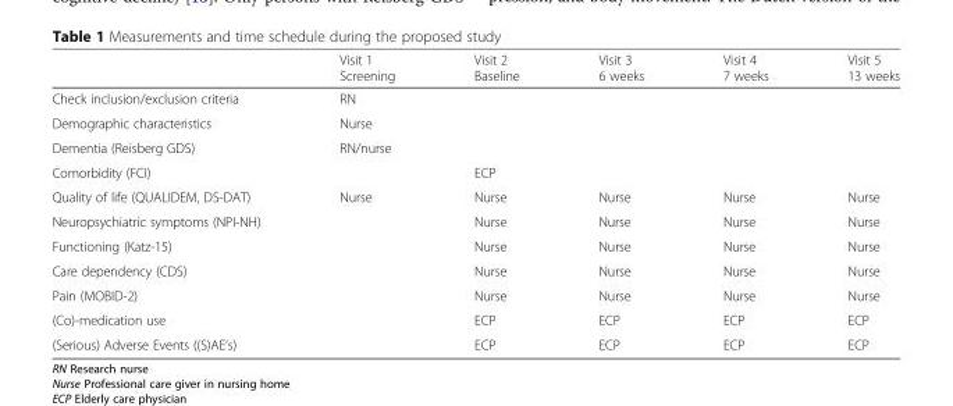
<table><thead><tr><td></td><td>Visit 1 Screening</td><td>Visit 2 Baseline</td><td>Visit 3 6 weeks</td><td>Visit 4 7 weeks</td><td>Visit 5 13 weeks</td></tr></thead><tbody><tr><td>Check inclusion/exclusion criteria</td><td>RN</td><td></td><td></td><td></td><td></td></tr><tr><td>Demographic characteristics</td><td>Nurse</td><td></td><td></td><td></td><td></td></tr><tr><td>Dementia (Reisberg GDS)</td><td>RN/nurse</td><td></td><td></td><td></td><td></td></tr><tr><td>Comorbidity (FCI)</td><td></td><td>ECP</td><td></td><td></td><td></td></tr><tr><td>Quality of life (QUALIDEM, DS-DAT)</td><td>Nurse</td><td>Nurse</td><td>Nurse</td><td>Nurse</td><td>Nurse</td></tr><tr><td>Neuropsychiatric symptoms (NPI-NH)</td><td></td><td>Nurse</td><td>Nurse</td><td>Nurse</td><td>Nurse</td></tr><tr><td>Functioning (Katz-15)</td><td></td><td>Nurse</td><td>Nurse</td><td>Nurse</td><td>Nurse</td></tr><tr><td>Care dependency (CDS)</td><td></td><td>Nurse</td><td>Nurse</td><td>Nurse</td><td>Nurse</td></tr><tr><td>Pain (MOBID-2)</td><td></td><td>Nurse</td><td>Nurse</td><td>Nurse</td><td>Nurse</td></tr><tr><td>(Co)-medication use</td><td></td><td>ECP</td><td>ECP</td><td>ECP</td><td>ECP</td></tr><tr><td>(Serious) Adverse Events ((S)AE’s)</td><td></td><td>ECP</td><td>ECP</td><td>ECP</td><td>ECP</td></tr></tbody></table>